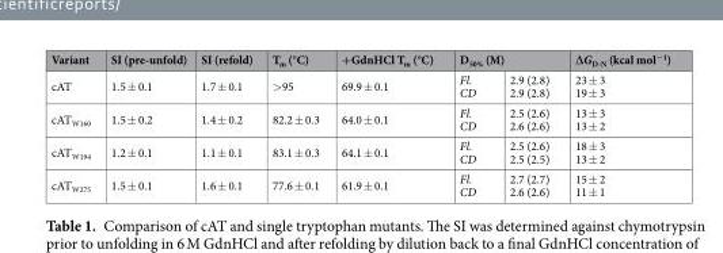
<table><thead><tr><td rowspan="2">Variant cAT</td><td rowspan="2">SI (pre-unfold) 1.5 ± 0.1</td><td rowspan="2">SI (refold) 1.7 ± 0.1</td><td rowspan="2">T<sub>m</sub> (°C) &gt;95</td><td rowspan="2">+GdnHCl T<sub>m</sub> (°C) 69.9 ± 0.1</td><td colspan="2">D<sub>50%</sub> (M)</td><td rowspan="2">∆G<sub>D-N</sub> (kcal mol<sup>−1</sup>) 23 ± 3 19 ± 3</td></tr><tr><td>Fl. CD</td><td>2.9 (2.8) 2.9 (2.8)</td></tr></thead><tbody><tr><td>cAT<sub>W160</sub></td><td>1.5 ± 0.2</td><td>1.4 ± 0.2</td><td>82.2 ± 0.3</td><td>64.0 ± 0.1</td><td>Fl. CD</td><td>2.5 (2.6) 2.6 (2.6)</td><td>13 ± 3 13 ± 2</td></tr><tr><td>cAT<sub>W194</sub></td><td>1.2 ± 0.1</td><td>1.1 ± 0.1</td><td>83.1 ± 0.3</td><td>64.1 ± 0.1</td><td>Fl. CD</td><td>2.5 (2.6) 2.5 (2.5)</td><td>18 ± 3 13 ± 2</td></tr><tr><td>cAT<sub>W275</sub></td><td>1.5 ± 0.1</td><td>1.6 ± 0.1</td><td>77.6 ± 0.1</td><td>61.9 ± 0.1</td><td>Fl. CD</td><td>2.7 (2.7) 2.6 (2.6)</td><td>15 ± 2 11 ± 1</td></tr></tbody></table>